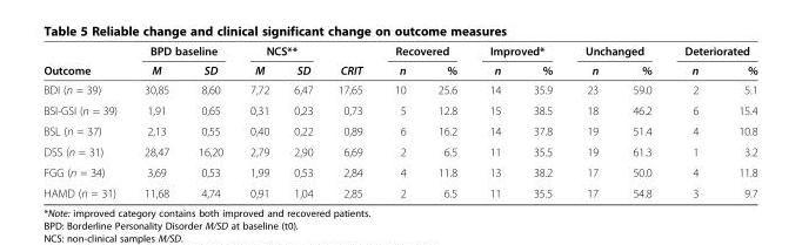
<table><thead><tr><td rowspan="2">Outcome</td><td colspan="2">BPD baseline</td><td colspan="2">NCS**</td><td rowspan="2">CRIT</td><td colspan="2">Recovered</td><td colspan="2">Improved*</td><td colspan="2">Unchanged</td><td colspan="2">Deteriorated</td></tr><tr><td>M</td><td>SD</td><td>M</td><td>SD</td><td>n</td><td>%</td><td>n</td><td>%</td><td>n</td><td>%</td><td>n</td><td>%</td></tr></thead><tbody><tr><td>BDI (n = 39)</td><td>30,85</td><td>8,60</td><td>7,72</td><td>6,47</td><td>17,65</td><td>10</td><td>25.6</td><td>14</td><td>35.9</td><td>23</td><td>59.0</td><td>2</td><td>5.1</td></tr><tr><td>BSI-GSI (n = 39)</td><td>1,91</td><td>0,65</td><td>0,31</td><td>0,23</td><td>0,73</td><td>5</td><td>12.8</td><td>15</td><td>38.5</td><td>18</td><td>46.2</td><td>6</td><td>15.4</td></tr><tr><td>BSL (n = 37)</td><td>2,13</td><td>0,55</td><td>0,40</td><td>0,22</td><td>0,89</td><td>6</td><td>16.2</td><td>14</td><td>37.8</td><td>19</td><td>51.4</td><td>4</td><td>10.8</td></tr><tr><td>DSS (n = 31)</td><td>28,47</td><td>16,20</td><td>2,79</td><td>2,90</td><td>6,69</td><td>2</td><td>6.5</td><td>11</td><td>35.5</td><td>19</td><td>61.3</td><td>1</td><td>3.2</td></tr><tr><td>FGG (n = 34)</td><td>3,69</td><td>0,53</td><td>1,99</td><td>0,53</td><td>2,84</td><td>4</td><td>11.8</td><td>13</td><td>38.2</td><td>17</td><td>50.0</td><td>4</td><td>11.8</td></tr><tr><td>HAMD (n = 31)</td><td>11,68</td><td>4,74</td><td>0,91</td><td>1,04</td><td>2,85</td><td>2</td><td>6.5</td><td>11</td><td>35.5</td><td>17</td><td>54.8</td><td>3</td><td>9.7</td></tr></tbody></table>